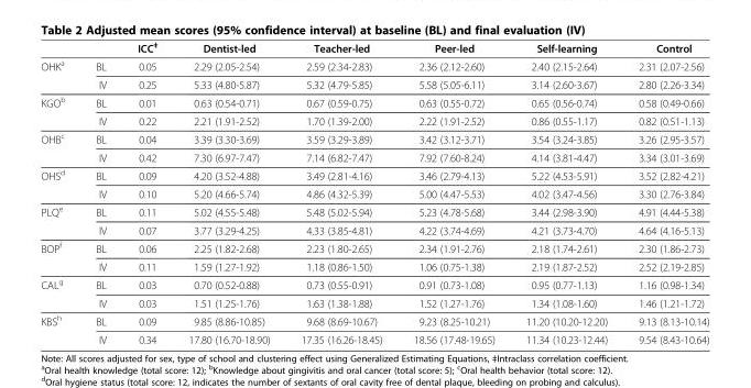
<table><thead><tr><td></td><td></td><td>ICC<sup>‡</sup></td><td>Dentist-led</td><td>Teacher-led</td><td>Peer-led</td><td>Self-learning</td><td>Control</td></tr></thead><tbody><tr><td rowspan="2">OHK<sup>a</sup></td><td>BL</td><td>0.05</td><td>2.29 (2.05-2.54)</td><td>2.59 (2.34-2.83)</td><td>2.36 (2.12-2.60)</td><td>2.40 (2.15-2.64)</td><td>2.31 (2.07-2.56)</td></tr><tr><td>IV</td><td>0.25</td><td>5.33 (4.80-5.87)</td><td>5.32 (4.79-5.85)</td><td>5.58 (5.05-6.11)</td><td>3.14 (2.60-3.67)</td><td>2.80 (2.26-3.34)</td></tr><tr><td rowspan="2">KGO<sup>b</sup></td><td>BL</td><td>0.01</td><td>0.63 (0.54-0.71)</td><td>0.67 (0.59-0.75)</td><td>0.63 (0.55-0.72)</td><td>0.65 (0.56-0.74)</td><td>0.58 (0.49-0.66)</td></tr><tr><td>IV</td><td>0.22</td><td>2.21 (1.91-2.52)</td><td>1.70 (1.39-2.00)</td><td>2.22 (1.91-2.52)</td><td>0.86 (0.55-1.17)</td><td>0.82 (0.51-1.13)</td></tr><tr><td rowspan="2">OHB<sup>c</sup></td><td>BL</td><td>0.04</td><td>3.39 (3.30-3.69)</td><td>3.59 (3.29-3.89)</td><td>3.42 (3.12-3.71)</td><td>3.54 (3.24-3.85)</td><td>3.26 (2.95-3.57)</td></tr><tr><td>IV</td><td>0.42</td><td>7.30 (6.97-7.47)</td><td>7.14 (6.82-7.47)</td><td>7.92 (7.60-8.24)</td><td>4.14 (3.81-4.47)</td><td>3.34 (3.01-3.69)</td></tr><tr><td rowspan="2">OHS<sup>d</sup></td><td>BL</td><td>0.09</td><td>4.20 (3.52-4.88)</td><td>3.49 (2.81-4.16)</td><td>3.46 (2.79-4.13)</td><td>5.22 (4.53-5.91)</td><td>3.52 (2.82-4.21)</td></tr><tr><td>IV</td><td>0.10</td><td>5.20 (4.66-5.74)</td><td>4.86 (4.32-5.39)</td><td>5.00 (4.47-5.53)</td><td>4.02 (3.47-4.56)</td><td>3.30 (2.76-3.84)</td></tr><tr><td rowspan="2">PLQ<sup>e</sup></td><td>BL</td><td>0.11</td><td>5.02 (4.55-5.48)</td><td>5.48 (5.02-5.94)</td><td>5.23 (4.78-5.68)</td><td>3.44 (2.98-3.90)</td><td>4.91 (4.44-5.38)</td></tr><tr><td>IV</td><td>0.07</td><td>3.77 (3.29-4.25)</td><td>4.33 (3.85-4.81)</td><td>4.22 (3.74-4.69)</td><td>4.21 (3.73-4.70)</td><td>4.64 (4.16-5.13)</td></tr><tr><td rowspan="2">BOP<sup>f</sup></td><td>BL</td><td>0.06</td><td>2.25 (1.82-2.68)</td><td>2.23 (1.80-2.65)</td><td>2.34 (1.91-2.76)</td><td>2.18 (1.74-2.61)</td><td>2.30 (1.86-2.73)</td></tr><tr><td>IV</td><td>0.11</td><td>1.59 (1.27-1.92)</td><td>1.18 (0.86-1.50)</td><td>1.06 (0.75-1.38)</td><td>2.19 (1.87-2.52)</td><td>2.52 (2.19-2.85)</td></tr><tr><td rowspan="2">CAL<sup>g</sup></td><td>BL</td><td>0.03</td><td>0.70 (0.52-0.88)</td><td>0.73 (0.55-0.91)</td><td>0.91 (0.73-1.08)</td><td>0.95 (0.77-1.13)</td><td>1.16 (0.98-1.34)</td></tr><tr><td>IV</td><td>0.03</td><td>1.51 (1.25-1.76)</td><td>1.63 (1.38-1.88)</td><td>1.52 (1.27-1.76)</td><td>1.34 (1.08-1.60)</td><td>1.46 (1.21-1.72)</td></tr><tr><td rowspan="2">KBS<sup>h</sup></td><td>BL</td><td>0.09</td><td>9.85 (8.86-10.85)</td><td>9.68 (8.69-10.67)</td><td>9.23 (8.25-10.21)</td><td>11.20 (10.20-12.20)</td><td>9.13 (8.13-10.14)</td></tr><tr><td>IV</td><td>0.34</td><td>17.80 (16.70-18.90)</td><td>17.35 (16.26-18.45)</td><td>18.56 (17.48-19.65)</td><td>11.34 (10.23-12.44)</td><td>9.54 (8.43-10.64)</td></tr></tbody></table>